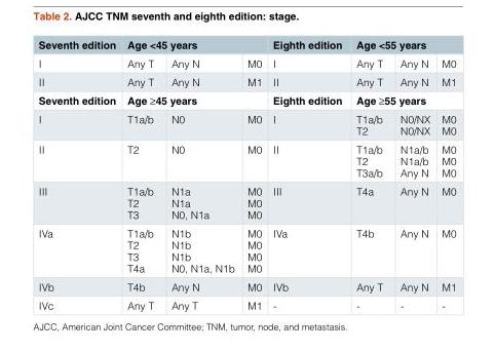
<table><thead><tr><td rowspan="2">Seventh edition I</td><td colspan="3">Age &lt;45 years</td><td rowspan="2">Eighth edition I</td><td colspan="3">Age &lt;55 years</td></tr><tr><td>Any T</td><td>Any N</td><td>M0</td><td>Any T</td><td>Any N</td><td>M0</td></tr></thead><tbody><tr><td>II</td><td>Any T</td><td>Any N</td><td>M1</td><td>II</td><td>Any T</td><td>Any N</td><td>M1</td></tr><tr><td>Seventh edition</td><td colspan="3">Age ≥45 years</td><td>Eighth edition</td><td colspan="3">Age ≥55 years</td></tr><tr><td>I</td><td>T1a/b</td><td>N0</td><td>M0</td><td>I</td><td>T1a/b T2</td><td>N0/NX N0/NX</td><td>M0 M0</td></tr><tr><td>II</td><td>T2</td><td>N0</td><td>M0</td><td>II</td><td>T1a/b T2 T3a/b</td><td>N1a/b N1a/b Any N</td><td>M0 M0 M0</td></tr><tr><td>III</td><td>T1a/b T2 T3</td><td>N1a N1a N0, N1a</td><td>M0 M0 M0</td><td>III</td><td>T4a</td><td>Any N</td><td>M0</td></tr><tr><td>IVa</td><td>T1a/b T2 T3 T4a</td><td>N1b N1b N1b N0, N1a, N1b</td><td>M0 M0 M0 M0</td><td>IVa</td><td>T4b</td><td>Any N</td><td>M0</td></tr><tr><td>IVb</td><td>T4b</td><td>Any N</td><td>M0</td><td>IVb</td><td>Any T</td><td>Any N</td><td>M1</td></tr><tr><td>IVc</td><td>Any T</td><td>Any T</td><td>M1</td><td>-</td><td>-</td><td>-</td><td>-</td></tr></tbody></table>